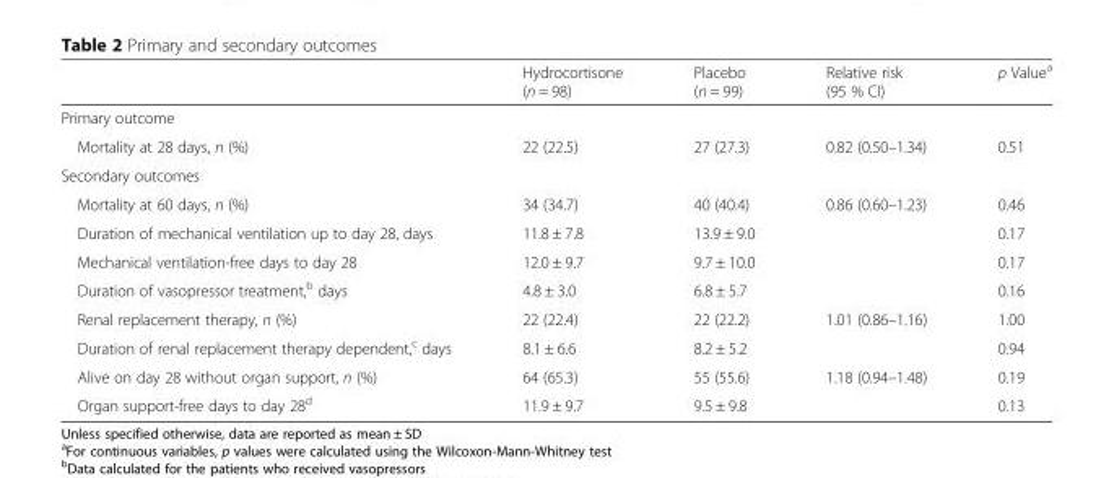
<table><thead><tr><td></td><td>Hydrocortisone (n = 98)</td><td>Placebo (n = 99)</td><td>Relative risk (95 % CI)</td><td>p Value<sup>a</sup></td></tr></thead><tbody><tr><td colspan="5">Primary outcome</td></tr><tr><td>Mortality at 28 days, n (%)</td><td>22 (22.5)</td><td>27 (27.3)</td><td>0.82 (0.50–1.34)</td><td>0.51</td></tr><tr><td colspan="5">Secondary outcomes</td></tr><tr><td>Mortality at 60 days, n (%)</td><td>34 (34.7)</td><td>40 (40.4)</td><td>0.86 (0.60–1.23)</td><td>0.46</td></tr><tr><td>Duration of mechanical ventilation up to day 28, days</td><td>11.8 ± 7.8</td><td>13.9 ± 9.0</td><td></td><td>0.17</td></tr><tr><td>Mechanical ventilation-free days to day 28</td><td>12.0 ± 9.7</td><td>9.7 ± 10.0</td><td></td><td>0.17</td></tr><tr><td>Duration of vasopressor treatment,<sup>b</sup> days</td><td>4.8 ± 3.0</td><td>6.8 ± 5.7</td><td></td><td>0.16</td></tr><tr><td>Renal replacement therapy, n (%)</td><td>22 (22.4)</td><td>22 (22.2)</td><td>1.01 (0.86–1.16)</td><td>1.00</td></tr><tr><td>Duration of renal replacement therapy dependent,<sup>c</sup> days</td><td>8.1 ± 6.6</td><td>8.2 ± 5.2</td><td></td><td>0.94</td></tr><tr><td>Alive on day 28 without organ support, n (%)</td><td>64 (65.3)</td><td>55 (55.6)</td><td>1.18 (0.94–1.48)</td><td>0.19</td></tr><tr><td>Organ support-free days to day 28<sup>d</sup></td><td>11.9 ± 9.7</td><td>9.5 ± 9.8</td><td></td><td>0.13</td></tr></tbody></table>